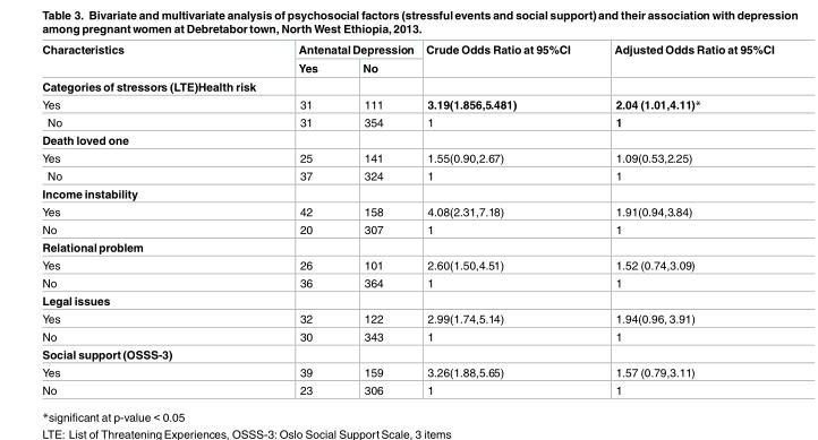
<table><thead><tr><td rowspan="2">Characteristics</td><td colspan="2">Antenatal Depression</td><td rowspan="2">Crude Odds Ratio at 95%CI</td><td rowspan="2">Adjusted Odds Ratio at 95%CI</td></tr><tr><td>Yes</td><td>No</td></tr></thead><tbody><tr><td colspan="5">Categories of stressors (LTE)Health risk</td></tr><tr><td>Yes</td><td>31</td><td>111</td><td>3.19(1.856,5.481)</td><td>2.04 (1.01,4.11)*</td></tr><tr><td>No</td><td>31</td><td>354</td><td>1</td><td>1</td></tr><tr><td colspan="5">Death loved one</td></tr><tr><td>Yes</td><td>25</td><td>141</td><td>1.55(0.90,2.67)</td><td>1.09(0.53,2.25)</td></tr><tr><td>No</td><td>37</td><td>324</td><td>1</td><td>1</td></tr><tr><td colspan="5">Income instability</td></tr><tr><td>Yes</td><td>42</td><td>158</td><td>4.08(2.31,7.18)</td><td>1.91(0.94,3.84)</td></tr><tr><td>No</td><td>20</td><td>307</td><td>1</td><td>1</td></tr><tr><td colspan="5">Relational problem</td></tr><tr><td>Yes</td><td>26</td><td>101</td><td>2.60(1.50,4.51)</td><td>1.52 (0.74,3.09)</td></tr><tr><td>No</td><td>36</td><td>364</td><td>1</td><td>1</td></tr><tr><td colspan="5">Legal issues</td></tr><tr><td>Yes</td><td>32</td><td>122</td><td>2.99(1.74,5.14)</td><td>1.94(0.96, 3.91)</td></tr><tr><td>No</td><td>30</td><td>343</td><td>1</td><td>1</td></tr><tr><td colspan="5">Social support(OSSS-3)</td></tr><tr><td>Yes</td><td>39</td><td>159</td><td>3.26(1.88,5.65)</td><td>1.57 (0.79,3.11)</td></tr><tr><td>No</td><td>23</td><td>306</td><td>1</td><td>1</td></tr></tbody></table>